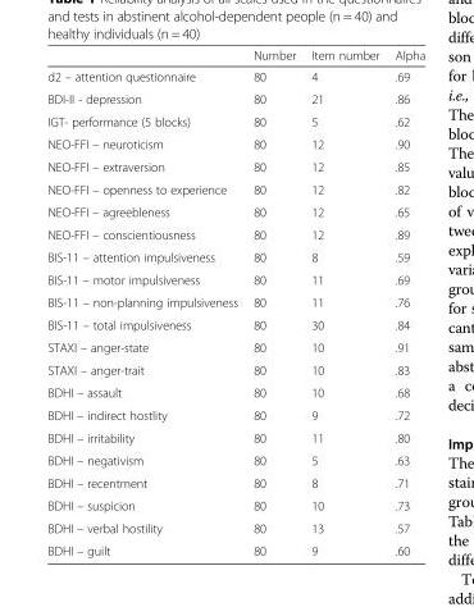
<table><thead><tr><td></td><td>Number</td><td>Item number</td><td>Alpha</td></tr></thead><tbody><tr><td>d2 – attention questionnaire</td><td>80</td><td>4</td><td>.69</td></tr><tr><td>BDI-II - depression</td><td>80</td><td>21</td><td>.86</td></tr><tr><td>IGT- performance (5 blocks)</td><td>80</td><td>5</td><td>.62</td></tr><tr><td>NEO-FFI – neuroticism</td><td>80</td><td>12</td><td>.90</td></tr><tr><td>NEO-FFI – extraversion</td><td>80</td><td>12</td><td>.85</td></tr><tr><td>NEO-FFI – openness to experience</td><td>80</td><td>12</td><td>.82</td></tr><tr><td>NEO-FFI – agreebleness</td><td>80</td><td>12</td><td>.65</td></tr><tr><td>NEO-FFI – conscientiousness</td><td>80</td><td>12</td><td>.89</td></tr><tr><td>BIS-11 – attention impulsiveness</td><td>80</td><td>8</td><td>.59</td></tr><tr><td>BIS-11 – motor impulsiveness</td><td>80</td><td>11</td><td>.69</td></tr><tr><td>BIS-11 – non-planning impulsiveness</td><td>80</td><td>11</td><td>.76</td></tr><tr><td>BIS-11 – total impulsiveness</td><td>80</td><td>30</td><td>.84</td></tr><tr><td>STAXI – anger-state</td><td>80</td><td>10</td><td>.91</td></tr><tr><td>STAXI – anger-trait</td><td>80</td><td>10</td><td>.83</td></tr><tr><td>BDHI – assault</td><td>80</td><td>10</td><td>.68</td></tr><tr><td>BDHI – indirect hostlity</td><td>80</td><td>9</td><td>.72</td></tr><tr><td>BDHI – irritability</td><td>80</td><td>11</td><td>.80</td></tr><tr><td>BDHI – negativism</td><td>80</td><td>5</td><td>.63</td></tr><tr><td>BDHI – recentment</td><td>80</td><td>8</td><td>.71</td></tr><tr><td>BDHI – suspicion</td><td>80</td><td>10</td><td>.73</td></tr><tr><td>BDHI – verbal hostility</td><td>80</td><td>13</td><td>.57</td></tr><tr><td>BDHI – guilt</td><td>80</td><td>9</td><td>.60</td></tr></tbody></table>